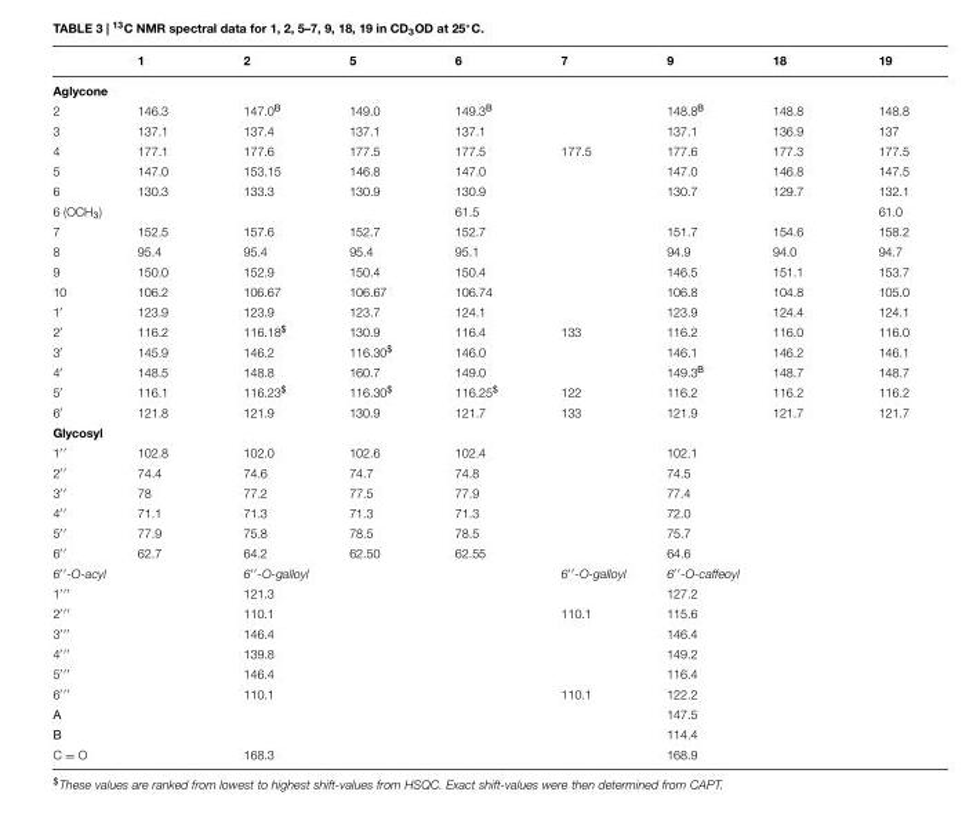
<table><thead><tr><td></td><td>1</td><td>2</td><td>5</td><td>6</td><td>7</td><td>9</td><td>18</td><td>19</td></tr></thead><tbody><tr><td colspan="9">Aglycone</td></tr><tr><td>2</td><td>146.3</td><td>147.0<sup>B</sup></td><td>149.0</td><td>149.3<sup>B</sup></td><td></td><td>148.8<sup>B</sup></td><td>148.8</td><td>148.8</td></tr><tr><td>3</td><td>137.1</td><td>137.4</td><td>137.1</td><td>137.1</td><td></td><td>137.1</td><td>136.9</td><td>137</td></tr><tr><td>4</td><td>177.1</td><td>177.6</td><td>177.5</td><td>177.5</td><td>177.5</td><td>177.6</td><td>177.3</td><td>177.5</td></tr><tr><td>5</td><td>147.0</td><td>153.15</td><td>146.8</td><td>147.0</td><td></td><td>147.0</td><td>146.8</td><td>147.5</td></tr><tr><td>6</td><td>130.3</td><td>133.3</td><td>130.9</td><td>130.9</td><td></td><td>130.7</td><td>129.7</td><td>132.1</td></tr><tr><td>6 (OCH<sub>3</sub>)</td><td></td><td></td><td></td><td>61.5</td><td></td><td></td><td></td><td>61.0</td></tr><tr><td>7</td><td>152.5</td><td>157.6</td><td>152.7</td><td>152.7</td><td></td><td>151.7</td><td>154.6</td><td>158.2</td></tr><tr><td>8</td><td>95.4</td><td>95.4</td><td>95.4</td><td>95.1</td><td></td><td>94.9</td><td>94.0</td><td>94.7</td></tr><tr><td>9</td><td>150.0</td><td>152.9</td><td>150.4</td><td>150.4</td><td></td><td>146.5</td><td>151.1</td><td>153.7</td></tr><tr><td>10</td><td>106.2</td><td>106.67</td><td>106.67</td><td>106.74</td><td></td><td>106.8</td><td>104.8</td><td>105.0</td></tr><tr><td>1′</td><td>123.9</td><td>123.9</td><td>123.7</td><td>124.1</td><td></td><td>123.9</td><td>124.4</td><td>124.1</td></tr><tr><td>2′</td><td>116.2</td><td>116.18<sup>$</sup></td><td>130.9</td><td>116.4</td><td>133</td><td>116.2</td><td>116.0</td><td>116.0</td></tr><tr><td>3′</td><td>145.9</td><td>146.2</td><td>116.30<sup>$</sup></td><td>146.0</td><td></td><td>146.1</td><td>146.2</td><td>146.1</td></tr><tr><td>4′</td><td>148.5</td><td>148.8</td><td>160.7</td><td>149.0</td><td></td><td>149.3<sup>B</sup></td><td>148.7</td><td>148.7</td></tr><tr><td>5′</td><td>116.1</td><td>116.23<sup>$</sup></td><td>116.30<sup>$</sup></td><td>116.25<sup>$</sup></td><td>122</td><td>116.2</td><td>116.2</td><td>116.2</td></tr><tr><td>6′</td><td>121.8</td><td>121.9</td><td>130.9</td><td>121.7</td><td>133</td><td>121.9</td><td>121.7</td><td>121.7</td></tr><tr><td colspan="9">Glycosyl</td></tr><tr><td>1′′</td><td>102.8</td><td>102.0</td><td>102.6</td><td>102.4</td><td></td><td>102.1</td><td></td><td></td></tr><tr><td>2′′</td><td>74.4</td><td>74.6</td><td>74.7</td><td>74.8</td><td></td><td>74.5</td><td></td><td></td></tr><tr><td>3′′</td><td>78</td><td>77.2</td><td>77.5</td><td>77.9</td><td></td><td>77.4</td><td></td><td></td></tr><tr><td>4′′</td><td>71.1</td><td>71.3</td><td>71.3</td><td>71.3</td><td></td><td>72.0</td><td></td><td></td></tr><tr><td>5′′</td><td>77.9</td><td>75.8</td><td>78.5</td><td>78.5</td><td></td><td>75.7</td><td></td><td></td></tr><tr><td>6′′</td><td>62.7</td><td>64.2</td><td>62.50</td><td>62.55</td><td></td><td>64.6</td><td></td><td></td></tr><tr><td>6′′-O-acyl</td><td></td><td>6′′-O-galloyl</td><td></td><td></td><td>6′′-O-galloyl</td><td>6′′-O-caffeoyl</td><td></td><td></td></tr><tr><td>1′′′</td><td></td><td>121.3</td><td></td><td></td><td></td><td>127.2</td><td></td><td></td></tr><tr><td>2′′′</td><td></td><td>110.1</td><td></td><td></td><td>110.1</td><td>115.6</td><td></td><td></td></tr><tr><td>3′′′</td><td></td><td>146.4</td><td></td><td></td><td></td><td>146.4</td><td></td><td></td></tr><tr><td>4′′′</td><td></td><td>139.8</td><td></td><td></td><td></td><td>149.2</td><td></td><td></td></tr><tr><td>5′′′</td><td></td><td>146.4</td><td></td><td></td><td></td><td>116.4</td><td></td><td></td></tr><tr><td>6′′′</td><td></td><td>110.1</td><td></td><td></td><td>110.1</td><td>122.2</td><td></td><td></td></tr><tr><td>A</td><td></td><td></td><td></td><td></td><td></td><td>147.5</td><td></td><td></td></tr><tr><td>B</td><td></td><td></td><td></td><td></td><td></td><td>114.4</td><td></td><td></td></tr><tr><td>C = O</td><td></td><td>168.3</td><td></td><td></td><td></td><td>168.9</td><td></td><td></td></tr></tbody></table>